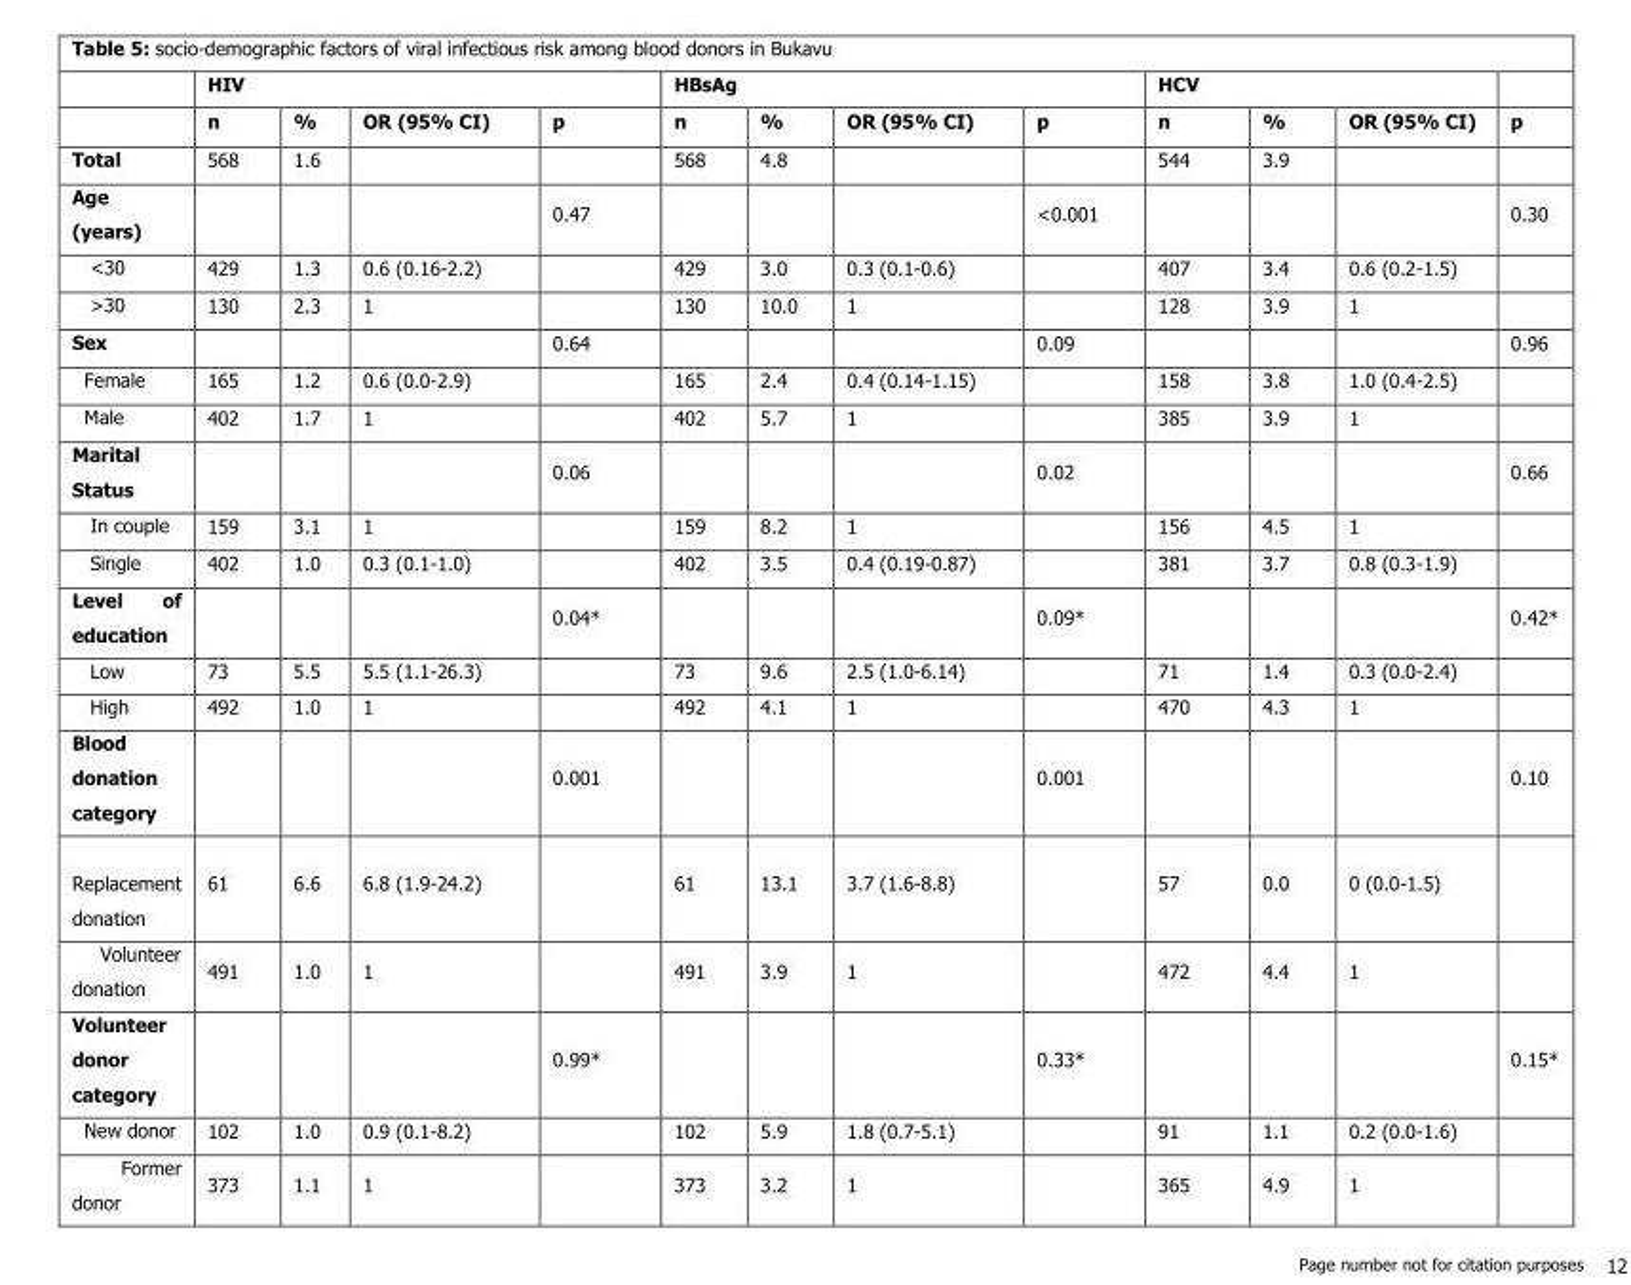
<table><thead><tr><td rowspan="2"></td><td colspan="4">HIV</td><td colspan="4">HBsAg</td><td colspan="3">HCV</td><td rowspan="2">p</td></tr><tr><td>n</td><td>%</td><td>OR (95% CI)</td><td>p</td><td>n</td><td>%</td><td>OR (95% CI)</td><td>p</td><td>n</td><td>%</td><td>OR (95% CI)</td></tr></thead><tbody><tr><td>Total</td><td>568</td><td>1.6</td><td></td><td></td><td>568</td><td>4.8</td><td></td><td></td><td>544</td><td>3.9</td><td></td><td></td></tr><tr><td>Age (years)</td><td></td><td></td><td></td><td>0.47</td><td></td><td></td><td></td><td>&lt;0.001</td><td></td><td></td><td></td><td>0.30</td></tr><tr><td>&lt;30</td><td>429</td><td>1.3</td><td>0.6 (0.16-2.2)</td><td></td><td>429</td><td>3.0</td><td>0.3 (0.1-0.6)</td><td></td><td>407</td><td>3.4</td><td>0.6 (0.2-1.5)</td><td></td></tr><tr><td>&gt;30</td><td>130</td><td>2.3</td><td>1</td><td></td><td>130</td><td>10.0</td><td>1</td><td></td><td>128</td><td>3.9</td><td>1</td><td></td></tr><tr><td>Sex</td><td></td><td></td><td></td><td>0.64</td><td></td><td></td><td></td><td>0.09</td><td></td><td></td><td></td><td>0.96</td></tr><tr><td>Female</td><td>165</td><td>1.2</td><td>0.6 (0.0-2.9)</td><td></td><td>165</td><td>2.4</td><td>0.4 (0.14-1.15)</td><td></td><td>158</td><td>3.8</td><td>1.0 (0.4-2.5)</td><td></td></tr><tr><td>Male</td><td>402</td><td>1.7</td><td>1</td><td></td><td>402</td><td>5.7</td><td>1</td><td></td><td>385</td><td>3.9</td><td>1</td><td></td></tr><tr><td>Marital Status</td><td></td><td></td><td></td><td>0.06</td><td></td><td></td><td></td><td>0.02</td><td></td><td></td><td></td><td>0.66</td></tr><tr><td>In couple</td><td>159</td><td>3.1</td><td>1</td><td></td><td>159</td><td>8.2</td><td>1</td><td></td><td>156</td><td>4.5</td><td>1</td><td></td></tr><tr><td>Single</td><td>402</td><td>1.0</td><td>0.3 (0.1-1.0)</td><td></td><td>402</td><td>3.5</td><td>0.4 (0.19-0.87)</td><td></td><td>381</td><td>3.7</td><td>0.8 (0.3-1.9)</td><td></td></tr><tr><td>Level of education</td><td></td><td></td><td></td><td>0.04*</td><td></td><td></td><td></td><td>0.09*</td><td></td><td></td><td></td><td>0.42*</td></tr><tr><td>Low</td><td>73</td><td>5.5</td><td>5.5 (1.1-26.3)</td><td></td><td>73</td><td>9.6</td><td>2.5 (1.0-6.14)</td><td></td><td>71</td><td>1.4</td><td>0.3 (0.0-2.4)</td><td></td></tr><tr><td>High</td><td>492</td><td>1.0</td><td>1</td><td></td><td>492</td><td>4.1</td><td>1</td><td></td><td>470</td><td>4.3</td><td>1</td><td></td></tr><tr><td>Blood donation category</td><td></td><td></td><td></td><td>0.001</td><td></td><td></td><td></td><td>0.001</td><td></td><td></td><td></td><td>0.10</td></tr><tr><td>Replacement donation</td><td>61</td><td>6.6</td><td>6.8 (1.9-24.2)</td><td></td><td>61</td><td>13.1</td><td>3.7 (1.6-8.8)</td><td></td><td>57</td><td>0.0</td><td>0 (0.0-1.5)</td><td></td></tr><tr><td>Volunteer donation</td><td>491</td><td>1.0</td><td>1</td><td></td><td>491</td><td>3.9</td><td>1</td><td></td><td>472</td><td>4.4</td><td>1</td><td></td></tr><tr><td>Volunteer donor category</td><td></td><td></td><td></td><td>0.99*</td><td></td><td></td><td></td><td>0.33*</td><td></td><td></td><td></td><td>0.15*</td></tr><tr><td>New donor</td><td>102</td><td>1.0</td><td>0.9 (0.1-8.2)</td><td></td><td>102</td><td>5.9</td><td>1.8 (0.7-5.1)</td><td></td><td>91</td><td>1.1</td><td>0.2 (0.0-1.6)</td><td></td></tr><tr><td>Former donor</td><td>373</td><td>1.1</td><td>1</td><td></td><td>373</td><td>3.2</td><td>1</td><td></td><td>365</td><td>4.9</td><td>1</td><td></td></tr></tbody></table>